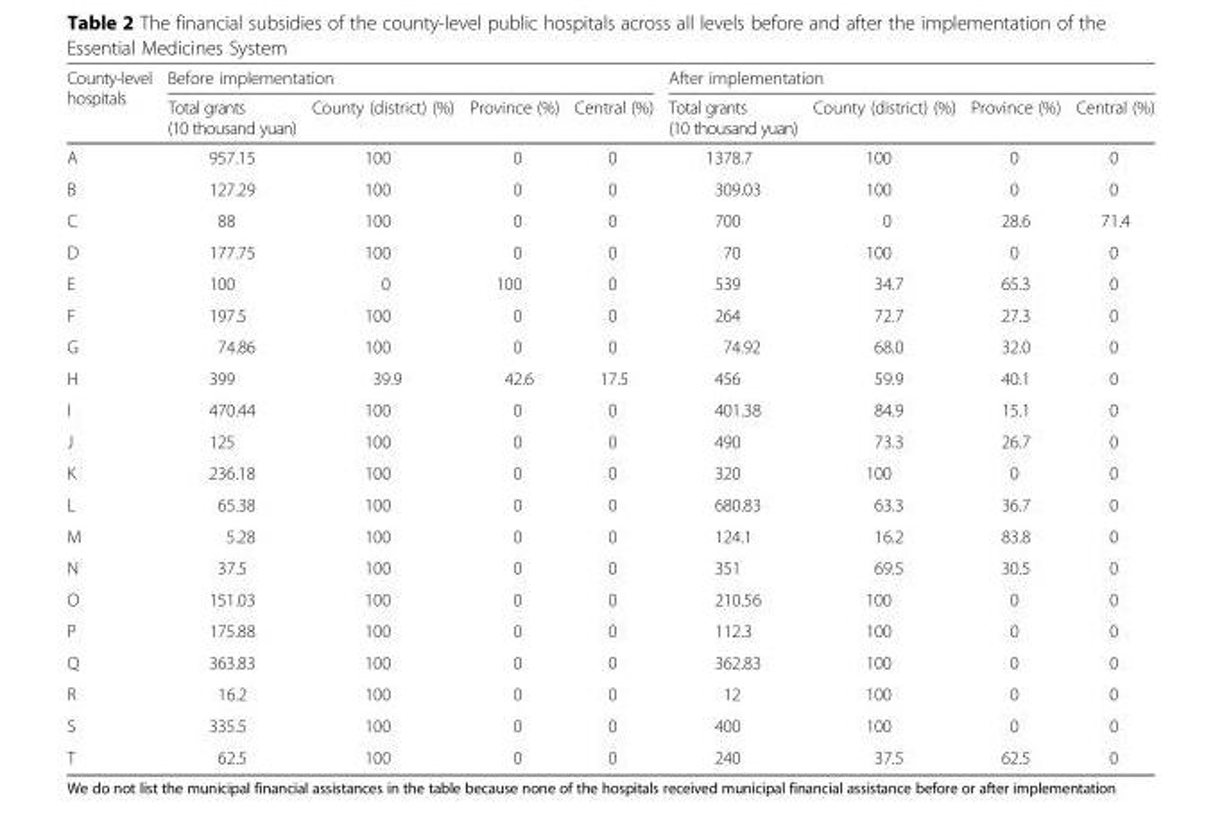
<table><thead><tr><td rowspan="2">County-level hospitals</td><td colspan="4">Before implementation</td><td colspan="4">After implementation</td></tr><tr><td>Total grants (10 thousand yuan)</td><td>County (district) (%)</td><td>Province (%)</td><td>Central (%)</td><td>Total grants (10 thousand yuan)</td><td>County (district) (%)</td><td>Province (%)</td><td>Central (%)</td></tr></thead><tbody><tr><td>A</td><td>957.15</td><td>100</td><td>0</td><td>0</td><td>1378.7</td><td>100</td><td>0</td><td>0</td></tr><tr><td>B</td><td>127.29</td><td>100</td><td>0</td><td>0</td><td>309.03</td><td>100</td><td>0</td><td>0</td></tr><tr><td>C</td><td>88</td><td>100</td><td>0</td><td>0</td><td>700</td><td>0</td><td>28.6</td><td>71.4</td></tr><tr><td>D</td><td>177.75</td><td>100</td><td>0</td><td>0</td><td>70</td><td>100</td><td>0</td><td>0</td></tr><tr><td>E</td><td>100</td><td>0</td><td>100</td><td>0</td><td>539</td><td>34.7</td><td>65.3</td><td>0</td></tr><tr><td>F</td><td>197.5</td><td>100</td><td>0</td><td>0</td><td>264</td><td>72.7</td><td>27.3</td><td>0</td></tr><tr><td>G</td><td>74.86</td><td>100</td><td>0</td><td>0</td><td>74.92</td><td>68.0</td><td>32.0</td><td>0</td></tr><tr><td>H</td><td>399</td><td>39.9</td><td>42.6</td><td>17.5</td><td>456</td><td>59.9</td><td>40.1</td><td>0</td></tr><tr><td>I</td><td>470.44</td><td>100</td><td>0</td><td>0</td><td>401.38</td><td>84.9</td><td>15.1</td><td>0</td></tr><tr><td>J</td><td>125</td><td>100</td><td>0</td><td>0</td><td>490</td><td>73.3</td><td>26.7</td><td>0</td></tr><tr><td>K</td><td>236.18</td><td>100</td><td>0</td><td>0</td><td>320</td><td>100</td><td>0</td><td>0</td></tr><tr><td>L</td><td>65.38</td><td>100</td><td>0</td><td>0</td><td>680.83</td><td>63.3</td><td>36.7</td><td>0</td></tr><tr><td>M</td><td>5.28</td><td>100</td><td>0</td><td>0</td><td>124.1</td><td>16.2</td><td>83.8</td><td>0</td></tr><tr><td>N</td><td>37.5</td><td>100</td><td>0</td><td>0</td><td>351</td><td>69.5</td><td>30.5</td><td>0</td></tr><tr><td>O</td><td>151.03</td><td>100</td><td>0</td><td>0</td><td>210.56</td><td>100</td><td>0</td><td>0</td></tr><tr><td>P</td><td>175.88</td><td>100</td><td>0</td><td>0</td><td>112.3</td><td>100</td><td>0</td><td>0</td></tr><tr><td>Q</td><td>363.83</td><td>100</td><td>0</td><td>0</td><td>362.83</td><td>100</td><td>0</td><td>0</td></tr><tr><td>R</td><td>16.2</td><td>100</td><td>0</td><td>0</td><td>12</td><td>100</td><td>0</td><td>0</td></tr><tr><td>S</td><td>335.5</td><td>100</td><td>0</td><td>0</td><td>400</td><td>100</td><td>0</td><td>0</td></tr><tr><td>T</td><td>62.5</td><td>100</td><td>0</td><td>0</td><td>240</td><td>37.5</td><td>62.5</td><td>0</td></tr></tbody></table>